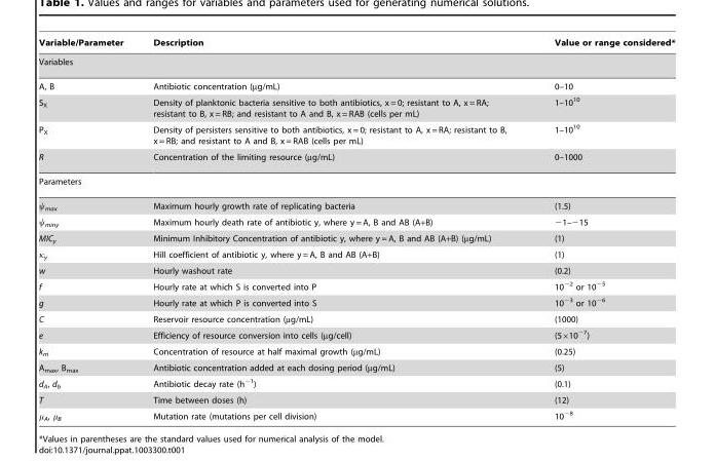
<table><thead><tr><td>Variable/Parameter</td><td>Description</td><td>Value or range considered*</td></tr></thead><tbody><tr><td colspan="3">Variables</td></tr><tr><td>A, B</td><td>Antibiotic concentration (µg/mL)</td><td>0–10</td></tr><tr><td>S<sub>X</sub></td><td>Density of planktonic bacteria sensitive to both antibiotics, x = 0; resistant to A, x = RA; resistant to B, x = RB; and resistant to A and B, x = RAB (cells per mL)</td><td>1–10<sup>10</sup></td></tr><tr><td>P<sub>X</sub></td><td>Density of persisters sensitive to both antibiotics, x = 0; resistant to A, x = RA; resistant to B, x = RB; and resistant to A and B, x = RAB (cells per mL)</td><td>1–10<sup>10</sup></td></tr><tr><td>R</td><td>Concentration of the limiting resource (µg/mL)</td><td>0–1000</td></tr><tr><td colspan="3">Parameters</td></tr><tr><td>ψ<sub>max</sub></td><td>Maximum hourly growth rate of replicating bacteria</td><td>(1.5)</td></tr><tr><td>ψ<sub>miny</sub></td><td>Maximum hourly death rate of antibiotic y, where y = A, B and AB (A+B)</td><td>−1–−15</td></tr><tr><td>MIC<sub>y</sub></td><td>Minimum Inhibitory Concentration of antibiotic y, where y = A, B and AB (A+B) (µg/mL)</td><td>(1)</td></tr><tr><td>κ<sub>y</sub></td><td>Hill coefficient of antibiotic y, where y = A, B and AB (A+B)</td><td>(1)</td></tr><tr><td>w</td><td>Hourly washout rate</td><td>(0.2)</td></tr><tr><td>f</td><td>Hourly rate at which S is converted into P</td><td>10<sup>−2</sup> or 10<sup>−5</sup></td></tr><tr><td>g</td><td>Hourly rate at which P is converted into S</td><td>10<sup>−3</sup> or 10<sup>−6</sup></td></tr><tr><td>C</td><td>Reservoir resource concentration (µg/mL)</td><td>(1000)</td></tr><tr><td>e</td><td>Efficiency of resource conversion into cells (µg/cell)</td><td>(5×10<sup>−7</sup>)</td></tr><tr><td>k<sub>m</sub></td><td>Concentration of resource at half maximal growth (µg/mL)</td><td>(0.25)</td></tr><tr><td>A<sub>max</sub>, B<sub>max</sub></td><td>Antibiotic concentration added at each dosing period (µg/mL)</td><td>(5)</td></tr><tr><td>d<sub>A</sub>, d<sub>b</sub></td><td>Antibiotic decay rate (h<sup>−1</sup>)</td><td>(0.1)</td></tr><tr><td>T</td><td>Time between doses (h)</td><td>(12)</td></tr><tr><td>μ<sub>A</sub>, μ<sub>B</sub></td><td>Mutation rate (mutations per cell division)</td><td>10<sup>−8</sup></td></tr></tbody></table>